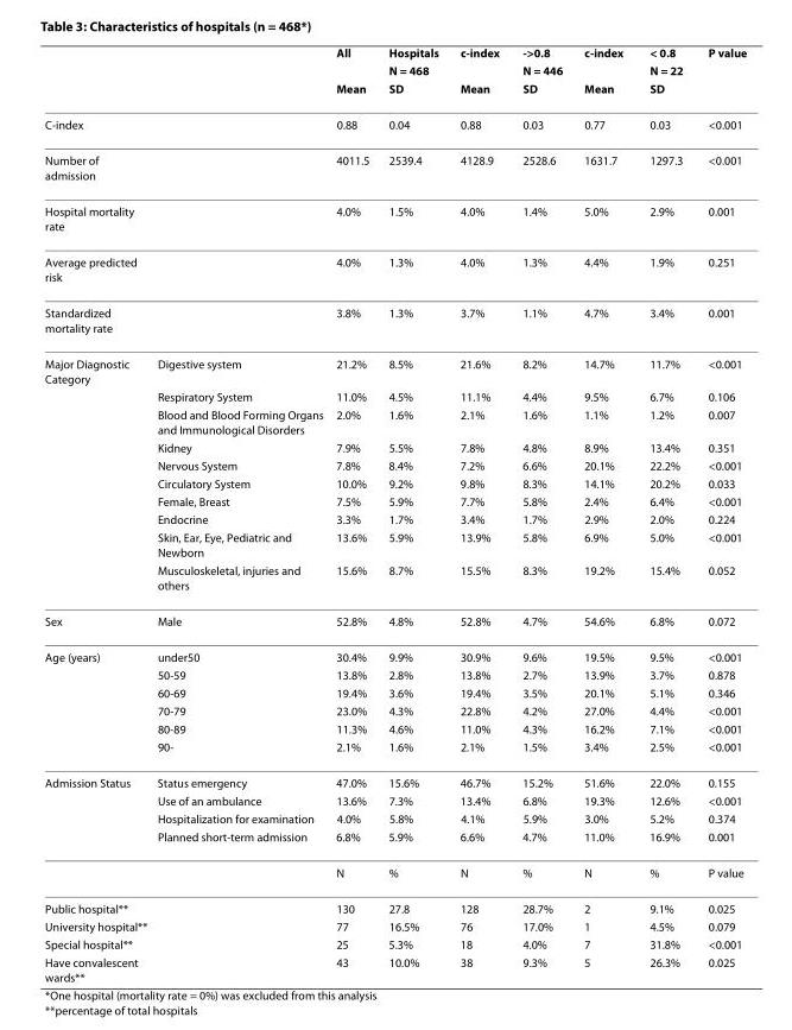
<table><thead><tr><td rowspan="3"></td><td rowspan="3"></td><td rowspan="3">All Mean</td><td rowspan="3">Hospitals N = 468 SD</td><td rowspan="3">c-index Mean</td><td rowspan="3">-&gt;0.8 N = 446 SD</td><td rowspan="3">c-index Mean</td><td rowspan="3">&lt; 0.8 N = 22 SD</td><td rowspan="3">P value</td></tr><tr></tr><tr></tr></thead><tbody><tr><td>C-index</td><td></td><td>0.88</td><td>0.04</td><td>0.88</td><td>0.03</td><td>0.77</td><td>0.03</td><td>&lt;0.001</td></tr><tr><td>Number of admission</td><td></td><td>4011.5</td><td>2539.4</td><td>4128.9</td><td>2528.6</td><td>1631.7</td><td>1297.3</td><td>&lt;0.001</td></tr><tr><td>Hospital mortality rate</td><td></td><td>4.0%</td><td>1.5%</td><td>4.0%</td><td>1.4%</td><td>5.0%</td><td>2.9%</td><td>0.001</td></tr><tr><td>Average predicted risk</td><td></td><td>4.0%</td><td>1.3%</td><td>4.0%</td><td>1.3%</td><td>4.4%</td><td>1.9%</td><td>0.251</td></tr><tr><td>Standardized mortality rate</td><td></td><td>3.8%</td><td>1.3%</td><td>3.7%</td><td>1.1%</td><td>4.7%</td><td>3.4%</td><td>0.001</td></tr><tr><td rowspan="10">Major Diagnostic Category</td><td>Digestive system</td><td>21.2%</td><td>8.5%</td><td>21.6%</td><td>8.2%</td><td>14.7%</td><td>11.7%</td><td>&lt;0.001</td></tr><tr><td>Respiratory System</td><td>11.0%</td><td>4.5%</td><td>11.1%</td><td>4.4%</td><td>9.5%</td><td>6.7%</td><td>0.106</td></tr><tr><td>Blood and Blood Forming Organs and Immunological Disorders</td><td>2.0%</td><td>1.6%</td><td>2.1%</td><td>1.6%</td><td>1.1%</td><td>1.2%</td><td>0.007</td></tr><tr><td>Kidney</td><td>7.9%</td><td>5.5%</td><td>7.8%</td><td>4.8%</td><td>8.9%</td><td>13.4%</td><td>0.351</td></tr><tr><td>Nervous System</td><td>7.8%</td><td>8.4%</td><td>7.2%</td><td>6.6%</td><td>20.1%</td><td>22.2%</td><td>&lt;0.001</td></tr><tr><td>Circulatory System</td><td>10.0%</td><td>9.2%</td><td>9.8%</td><td>8.3%</td><td>14.1%</td><td>20.2%</td><td>0.033</td></tr><tr><td>Female, Breast</td><td>7.5%</td><td>5.9%</td><td>7.7%</td><td>5.8%</td><td>2.4%</td><td>6.4%</td><td>&lt;0.001</td></tr><tr><td>Endocrine</td><td>3.3%</td><td>1.7%</td><td>3.4%</td><td>1.7%</td><td>2.9%</td><td>2.0%</td><td>0.224</td></tr><tr><td>Skin, Ear, Eye, Pediatric and Newborn</td><td>13.6%</td><td>5.9%</td><td>13.9%</td><td>5.8%</td><td>6.9%</td><td>5.0%</td><td>&lt;0.001</td></tr><tr><td>Musculoskeletal, injuries and others</td><td>15.6%</td><td>8.7%</td><td>15.5%</td><td>8.3%</td><td>19.2%</td><td>15.4%</td><td>0.052</td></tr><tr><td>Sex</td><td>Male</td><td>52.8%</td><td>4.8%</td><td>52.8%</td><td>4.7%</td><td>54.6%</td><td>6.8%</td><td>0.072</td></tr><tr><td rowspan="6">Age (years)</td><td>under50</td><td>30.4%</td><td>9.9%</td><td>30.9%</td><td>9.6%</td><td>19.5%</td><td>9.5%</td><td>&lt;0.001</td></tr><tr><td>50-59</td><td>13.8%</td><td>2.8%</td><td>13.8%</td><td>2.7%</td><td>13.9%</td><td>3.7%</td><td>0.878</td></tr><tr><td>60-69</td><td>19.4%</td><td>3.6%</td><td>19.4%</td><td>3.5%</td><td>20.1%</td><td>5.1%</td><td>0.346</td></tr><tr><td>70-79</td><td>23.0%</td><td>4.3%</td><td>22.8%</td><td>4.2%</td><td>27.0%</td><td>4.4%</td><td>&lt;0.001</td></tr><tr><td>80-89</td><td>11.3%</td><td>4.6%</td><td>11.0%</td><td>4.3%</td><td>16.2%</td><td>7.1%</td><td>&lt;0.001</td></tr><tr><td>90-</td><td>2.1%</td><td>1.6%</td><td>2.1%</td><td>1.5%</td><td>3.4%</td><td>2.5%</td><td>&lt;0.001</td></tr><tr><td rowspan="5">Admission Status</td><td>Status emergency</td><td>47.0%</td><td>15.6%</td><td>46.7%</td><td>15.2%</td><td>51.6%</td><td>22.0%</td><td>0.155</td></tr><tr><td>Use of an ambulance</td><td>13.6%</td><td>7.3%</td><td>13.4%</td><td>6.8%</td><td>19.3%</td><td>12.6%</td><td>&lt;0.001</td></tr><tr><td>Hospitalization for examination</td><td>4.0%</td><td>5.8%</td><td>4.1%</td><td>5.9%</td><td>3.0%</td><td>5.2%</td><td>0.374</td></tr><tr><td>Planned short-term admission</td><td>6.8%</td><td>5.9%</td><td>6.6%</td><td>4.7%</td><td>11.0%</td><td>16.9%</td><td>0.001</td></tr><tr><td></td><td>N</td><td>%</td><td>N</td><td>%</td><td>N</td><td>%</td><td>P value</td></tr><tr><td>Public hospital**</td><td></td><td>130</td><td>27.8</td><td>128</td><td>28.7%</td><td>2</td><td>9.1%</td><td>0.025</td></tr><tr><td>University hospital**</td><td></td><td>77</td><td>16.5%</td><td>76</td><td>17.0%</td><td>1</td><td>4.5%</td><td>0.079</td></tr><tr><td>Special hospital**</td><td></td><td>25</td><td>5.3%</td><td>18</td><td>4.0%</td><td>7</td><td>31.8%</td><td>&lt;0.001</td></tr><tr><td>Have convalescent wards**</td><td></td><td>43</td><td>10.0%</td><td>38</td><td>9.3%</td><td>5</td><td>26.3%</td><td>0.025</td></tr></tbody></table>